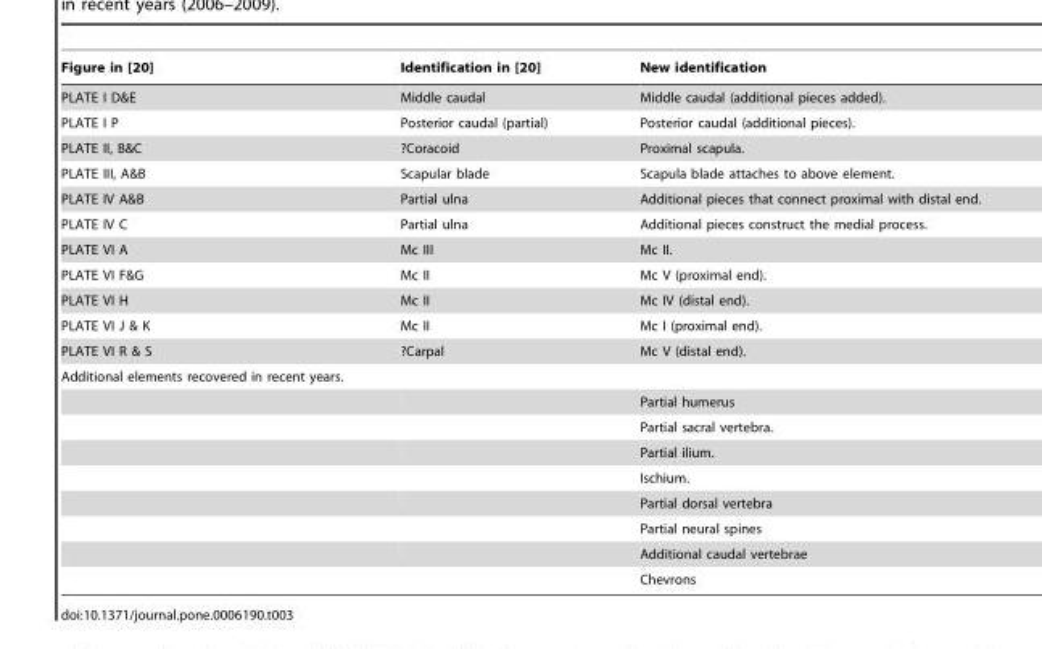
<table><thead><tr><td>Figure in [20]</td><td>Identification in [20]</td><td>New identification</td></tr></thead><tbody><tr><td>PLATE I D&amp;E</td><td>Middle caudal</td><td>Middle caudal (additional pieces added).</td></tr><tr><td>PLATE I P</td><td>Posterior caudal (partial)</td><td>Posterior caudal (additional pieces).</td></tr><tr><td>PLATE II, B&amp;C</td><td>?Coracoid</td><td>Proximal scapula.</td></tr><tr><td>PLATE III, A&amp;B</td><td>Scapular blade</td><td>Scapula blade attaches to above element.</td></tr><tr><td>PLATE IV A&amp;B</td><td>Partial ulna</td><td>Additional pieces that connect proximal with distal end.</td></tr><tr><td>PLATE IV C</td><td>Partial ulna</td><td>Additional pieces construct the medial process.</td></tr><tr><td>PLATE VI A</td><td>Mc III</td><td>Mc II.</td></tr><tr><td>PLATE VI F&amp;G</td><td>Mc II</td><td>Mc V (proximal end).</td></tr><tr><td>PLATE VI H</td><td>Mc II</td><td>Mc IV (distal end).</td></tr><tr><td>PLATE VI J &amp; K</td><td>Mc II</td><td>Mc I (proximal end).</td></tr><tr><td>PLATE VI R &amp; S</td><td>?Carpal</td><td>Mc V (distal end).</td></tr><tr><td colspan="3">Additional elements recovered in recent years.</td></tr><tr><td></td><td></td><td>Partial humerus</td></tr><tr><td></td><td></td><td>Partial sacral vertebra.</td></tr><tr><td></td><td></td><td>Partial ilium.</td></tr><tr><td></td><td></td><td>Ischium.</td></tr><tr><td></td><td></td><td>Partial dorsal vertebra</td></tr><tr><td></td><td></td><td>Partial neural spines</td></tr><tr><td></td><td></td><td>Additional caudal vertebrae</td></tr><tr><td></td><td></td><td>Chevrons</td></tr></tbody></table>